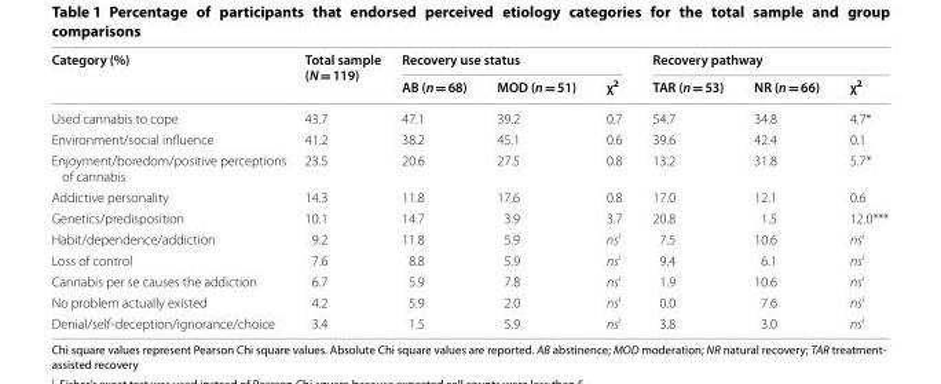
<table><thead><tr><td rowspan="2">Category (%)</td><td rowspan="2">Total sample (N = 119)</td><td colspan="3">Recovery use status</td><td colspan="3">Recovery pathway</td></tr><tr><td>AB (n = 68)</td><td>MOD (n = 51)</td><td>χ<sup>2</sup></td><td>TAR (n = 53)</td><td>NR (n = 66)</td><td>χ<sup>2</sup></td></tr></thead><tbody><tr><td>Used cannabis to cope</td><td>43.7</td><td>47.1</td><td>39.2</td><td>0.7</td><td>54.7</td><td>34.8</td><td>4.7*</td></tr><tr><td>Environment/social influence</td><td>41.2</td><td>38.2</td><td>45.1</td><td>0.6</td><td>39.6</td><td>42.4</td><td>0.1</td></tr><tr><td>Enjoyment/boredom/positive perceptions of cannabis</td><td>23.5</td><td>20.6</td><td>27.5</td><td>0.8</td><td>13.2</td><td>31.8</td><td>5.7*</td></tr><tr><td>Addictive personality</td><td>14.3</td><td>11.8</td><td>17.6</td><td>0.8</td><td>17.0</td><td>12.1</td><td>0.6</td></tr><tr><td>Genetics/predisposition</td><td>10.1</td><td>14.7</td><td>3.9</td><td>3.7</td><td>20.8</td><td>1.5</td><td>12.0***</td></tr><tr><td>Habit/dependence/addiction</td><td>9.2</td><td>11.8</td><td>5.9</td><td>ns<sup>i</sup></td><td>7.5</td><td>10.6</td><td>ns<sup>i</sup></td></tr><tr><td>Loss of control</td><td>7.6</td><td>8.8</td><td>5.9</td><td>ns<sup>i</sup></td><td>9.4</td><td>6.1</td><td>ns<sup>i</sup></td></tr><tr><td>Cannabis per se causes the addiction</td><td>6.7</td><td>5.9</td><td>7.8</td><td>ns<sup>i</sup></td><td>1.9</td><td>10.6</td><td>ns<sup>i</sup></td></tr><tr><td>No problem actually existed</td><td>4.2</td><td>5.9</td><td>2.0</td><td>ns<sup>i</sup></td><td>0.0</td><td>7.6</td><td>ns<sup>i</sup></td></tr><tr><td>Denial/self-deception/ignorance/choice</td><td>3.4</td><td>1.5</td><td>5.9</td><td>ns<sup>i</sup></td><td>3.8</td><td>3.0</td><td>ns<sup>i</sup></td></tr></tbody></table>